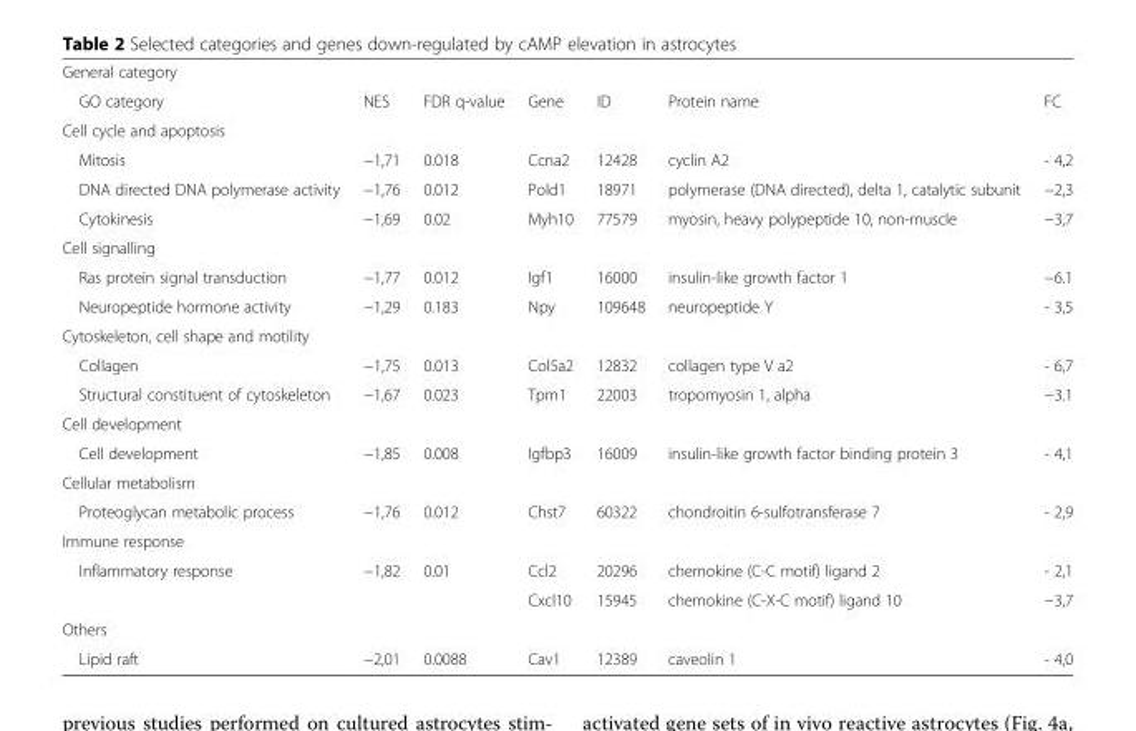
<table><tbody><tr><td colspan="7">General category</td></tr><tr><td>GO category</td><td>NES</td><td>FDR q-value</td><td>Gene</td><td>ID</td><td>Protein name</td><td>FC</td></tr><tr><td colspan="7">Cell cycle and apoptosis</td></tr><tr><td>Mitosis</td><td>−1,71</td><td>0.018</td><td>Ccna2</td><td>12428</td><td>cyclin A2</td><td>- 4,2</td></tr><tr><td>DNA directed DNA polymerase activity</td><td>−1,76</td><td>0.012</td><td>Pold1</td><td>18971</td><td>polymerase (DNA directed), delta 1, catalytic subunit</td><td>−2,3</td></tr><tr><td>Cytokinesis</td><td>−1,69</td><td>0.02</td><td>Myh10</td><td>77579</td><td>myosin, heavy polypeptide 10, non-muscle</td><td>−3,7</td></tr><tr><td colspan="7">Cell signalling</td></tr><tr><td>Ras protein signal transduction</td><td>−1,77</td><td>0.012</td><td>Igf1</td><td>16000</td><td>insulin-like growth factor 1</td><td>−6.1</td></tr><tr><td>Neuropeptide hormone activity</td><td>−1,29</td><td>0.183</td><td>Npy</td><td>109648</td><td>neuropeptide Y</td><td>- 3,5</td></tr><tr><td colspan="7">Cytoskeleton, cell shape and motility</td></tr><tr><td>Collagen</td><td>−1,75</td><td>0.013</td><td>Col5a2</td><td>12832</td><td>collagen type V a2</td><td>- 6,7</td></tr><tr><td>Structural constituent of cytoskeleton</td><td>−1,67</td><td>0.023</td><td>Tpm1</td><td>22003</td><td>tropomyosin 1, alpha</td><td>−3.1</td></tr><tr><td colspan="7">Cell development</td></tr><tr><td>Cell development</td><td>−1,85</td><td>0.008</td><td>Igfbp3</td><td>16009</td><td>insulin-like growth factor binding protein 3</td><td>- 4,1</td></tr><tr><td colspan="7">Cellular metabolism</td></tr><tr><td>Proteoglycan metabolic process</td><td>−1,76</td><td>0.012</td><td>Chst7</td><td>60322</td><td>chondroitin 6-sulfotransferase 7</td><td>- 2,9</td></tr><tr><td colspan="7">Immune response</td></tr><tr><td rowspan="2">Inflammatory response</td><td>−1,82</td><td>0.01</td><td>Ccl2</td><td>20296</td><td>chemokine (C-C motif) ligand 2</td><td>- 2,1</td></tr><tr><td></td><td></td><td>Cxcl10</td><td>15945</td><td>chemokine (C-X-C motif) ligand 10</td><td>−3,7</td></tr><tr><td colspan="7">Others</td></tr><tr><td>Lipid raft</td><td>−2,01</td><td>0.0088</td><td>Cav1</td><td>12389</td><td>caveolin 1</td><td>- 4,0</td></tr></tbody></table>